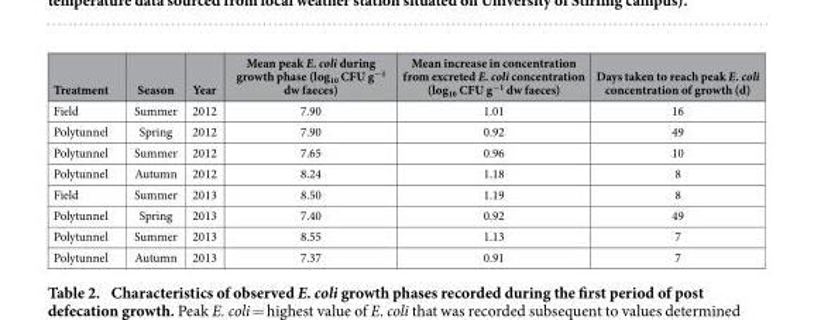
<table><thead><tr><td>Treatment</td><td>Season</td><td>Year</td><td>Mean peak E. coli during growth phase (log<sub>10</sub> CFU g<sup>−1</sup> dw faeces)</td><td>Mean increase in concentration from excreted E. coli concentration (log<sub>10</sub> CFU g<sup>−1</sup> dw faeces)</td><td>Days taken to reach peak E. coli concentration of growth (d)</td></tr></thead><tbody><tr><td>Field</td><td>Summer</td><td>2012</td><td>7.90</td><td>1.01</td><td>16</td></tr><tr><td>Polytunnel</td><td>Spring</td><td>2012</td><td>7.90</td><td>0.92</td><td>49</td></tr><tr><td>Polytunnel</td><td>Summer</td><td>2012</td><td>7.65</td><td>0.96</td><td>10</td></tr><tr><td>Polytunnel</td><td>Autumn</td><td>2012</td><td>8.24</td><td>1.18</td><td>8</td></tr><tr><td>Field</td><td>Summer</td><td>2013</td><td>8.50</td><td>1.19</td><td>8</td></tr><tr><td>Polytunnel</td><td>Spring</td><td>2013</td><td>7.40</td><td>0.92</td><td>49</td></tr><tr><td>Polytunnel</td><td>Summer</td><td>2013</td><td>8.55</td><td>1.13</td><td>7</td></tr><tr><td>Polytunnel</td><td>Autumn</td><td>2013</td><td>7.37</td><td>0.91</td><td>7</td></tr></tbody></table>